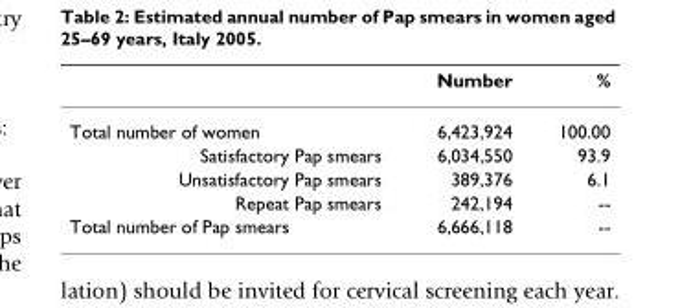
<table><thead><tr><td></td><td>Number</td><td>%</td></tr></thead><tbody><tr><td>Total number of women</td><td>6,423,924</td><td>100.00</td></tr><tr><td>Satisfactory Pap smears</td><td>6,034,550</td><td>93.9</td></tr><tr><td>Unsatisfactory Pap smears</td><td>389,376</td><td>6.1</td></tr><tr><td>Repeat Pap smears</td><td>242,194</td><td>--</td></tr><tr><td>Total number of Pap smears</td><td>6,666,118</td><td>--</td></tr></tbody></table>